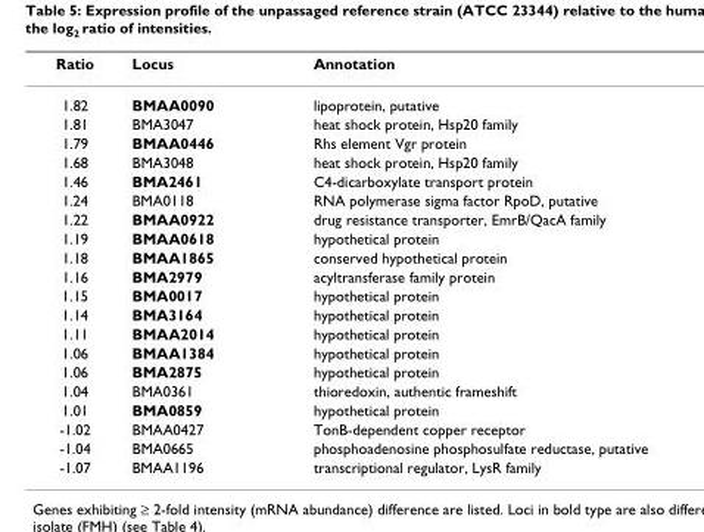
<table><thead><tr><td>Ratio</td><td>Locus</td><td>Annotation</td></tr></thead><tbody><tr><td>1.82</td><td>BMAA0090</td><td>lipoprotein, putative</td></tr><tr><td>1.81</td><td>BMA3047</td><td>heat shock protein, Hsp20 family</td></tr><tr><td>1.79</td><td>BMAA0446</td><td>Rhs element Vgr protein</td></tr><tr><td>1.68</td><td>BMA3048</td><td>heat shock protein, Hsp20 family</td></tr><tr><td>1.46</td><td>BMA2461</td><td>C4-dicarboxylate transport protein</td></tr><tr><td>1.24</td><td>BMA0118</td><td>RNA polymerase sigma factor RpoD, putative</td></tr><tr><td>1.22</td><td>BMAA0922</td><td>drug resistance transporter, EmrB/QacA family</td></tr><tr><td>1.19</td><td>BMAA0618</td><td>hypothetical protein</td></tr><tr><td>1.18</td><td>BMAA1865</td><td>conserved hypothetical protein</td></tr><tr><td>1.16</td><td>BMA2979</td><td>acyltransferase family protein</td></tr><tr><td>1.15</td><td>BMA0017</td><td>hypothetical protein</td></tr><tr><td>1.14</td><td>BMA3164</td><td>hypothetical protein</td></tr><tr><td>1.11</td><td>BMAA2014</td><td>hypothetical protein</td></tr><tr><td>1.06</td><td>BMAA1384</td><td>hypothetical protein</td></tr><tr><td>1.06</td><td>BMA2875</td><td>hypothetical protein</td></tr><tr><td>1.04</td><td>BMA0361</td><td>thioredoxin, authentic frameshift</td></tr><tr><td>1.01</td><td>BMA0859</td><td>hypothetical protein</td></tr><tr><td>-1.02</td><td>BMAA0427</td><td>TonB-dependent copper receptor</td></tr><tr><td>-1.04</td><td>BMA0665</td><td>phosphoadenosine phosphosulfate reductase, putative</td></tr><tr><td>-1.07</td><td>BMAA1196</td><td>transcriptional regulator, LysR family</td></tr></tbody></table>